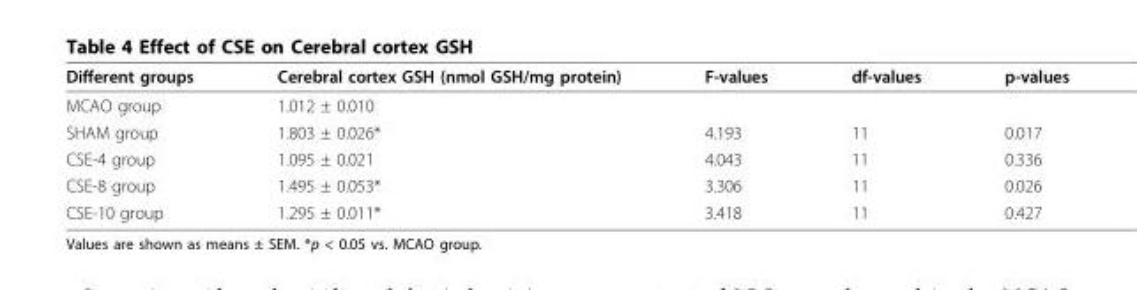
<table><thead><tr><td>Different groups</td><td>Cerebral cortex GSH (nmol GSH/mg protein)</td><td>F-values</td><td>df-values</td><td>p-values</td></tr></thead><tbody><tr><td>MCAO group</td><td>1.012 ± 0.010</td><td></td><td></td><td></td></tr><tr><td>SHAM group</td><td>1.803 ± 0.026*</td><td>4.193</td><td>11</td><td>0.017</td></tr><tr><td>CSE-4 group</td><td>1.095 ± 0.021</td><td>4.043</td><td>11</td><td>0.336</td></tr><tr><td>CSE-8 group</td><td>1.495 ± 0.053*</td><td>3.306</td><td>11</td><td>0.026</td></tr><tr><td>CSE-10 group</td><td>1.295 ± 0.011*</td><td>3.418</td><td>11</td><td>0.427</td></tr></tbody></table>